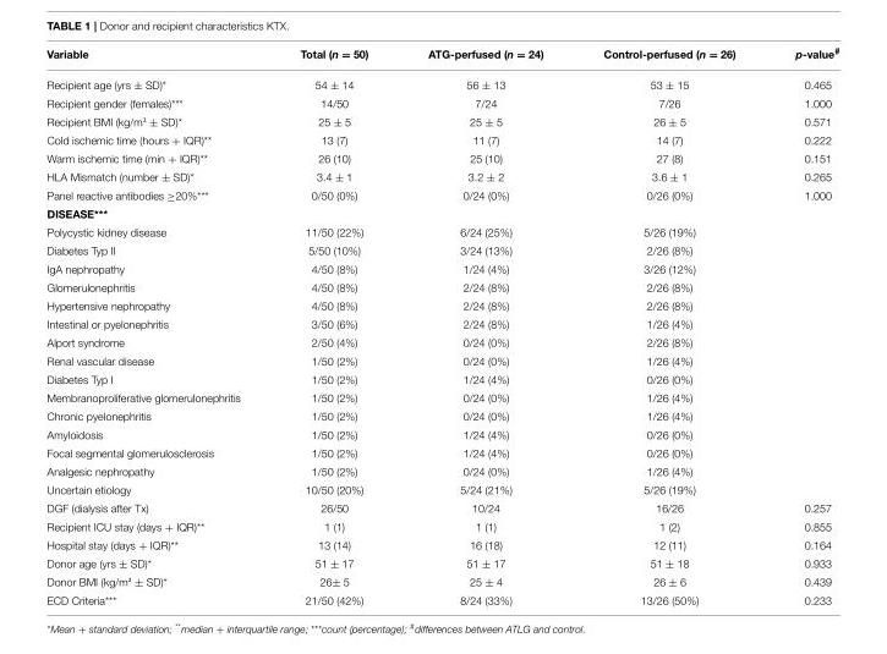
<table><thead><tr><td>Variable</td><td>Total (n = 50)</td><td>ATG-perfused (n = 24)</td><td>Control-perfused (n = 26)</td><td>p-value<sup>#</sup></td></tr></thead><tbody><tr><td>Recipient age (yrs ± SD)*</td><td>54 ± 14</td><td>56 ± 13</td><td>53 ± 15</td><td>0.465</td></tr><tr><td>Recipient gender (females)***</td><td>14/50</td><td>7/24</td><td>7/26</td><td>1.000</td></tr><tr><td>Recipient BMI (kg/m² ± SD)*</td><td>25 ± 5</td><td>25 ± 5</td><td>26 ± 5</td><td>0.571</td></tr><tr><td>Cold ischemic time (hours + IQR)**</td><td>13 (7)</td><td>11 (7)</td><td>14 (7)</td><td>0.222</td></tr><tr><td>Warm ischemic time (min + IQR)**</td><td>26 (10)</td><td>25 (10)</td><td>27 (8)</td><td>0.151</td></tr><tr><td>HLA Mismatch (number ± SD)*</td><td>3.4 ± 1</td><td>3.2 ± 2</td><td>3.6 ± 1</td><td>0.265</td></tr><tr><td>Panel reactive antibodies ≥20%***</td><td>0/50 (0%)</td><td>0/24 (0%)</td><td>0/26 (0%)</td><td>1.000</td></tr><tr><td colspan="5">DISEASE***</td></tr><tr><td>Polycystic kidney disease</td><td>11/50 (22%)</td><td>6/24 (25%)</td><td>5/26 (19%)</td><td></td></tr><tr><td>Diabetes Typ II</td><td>5/50 (10%)</td><td>3/24 (13%)</td><td>2/26 (8%)</td><td></td></tr><tr><td>IgA nephropathy</td><td>4/50 (8%)</td><td>1/24 (4%)</td><td>3/26 (12%)</td><td></td></tr><tr><td>Glomerulonephritis</td><td>4/50 (8%)</td><td>2/24 (8%)</td><td>2/26 (8%)</td><td></td></tr><tr><td>Hypertensive nephropathy</td><td>4/50 (8%)</td><td>2/24 (8%)</td><td>2/26 (8%)</td><td></td></tr><tr><td>Intestinal or pyelonephritis</td><td>3/50 (6%)</td><td>2/24 (8%)</td><td>1/26 (4%)</td><td></td></tr><tr><td>Alport syndrome</td><td>2/50 (4%)</td><td>0/24 (0%)</td><td>2/26 (8%)</td><td></td></tr><tr><td>Renal vascular disease</td><td>1/50 (2%)</td><td>0/24 (0%)</td><td>1/26 (4%)</td><td></td></tr><tr><td>Diabetes Typ I</td><td>1/50 (2%)</td><td>1/24 (4%)</td><td>0/26 (0%)</td><td></td></tr><tr><td>Membranoproliferative glomerulonephritis</td><td>1/50 (2%)</td><td>0/24 (0%)</td><td>1/26 (4%)</td><td></td></tr><tr><td>Chronic pyelonephritis</td><td>1/50 (2%)</td><td>0/24 (0%)</td><td>1/26 (4%)</td><td></td></tr><tr><td>Amyloidosis</td><td>1/50 (2%)</td><td>1/24 (4%)</td><td>0/26 (0%)</td><td></td></tr><tr><td>Focal segmental glomerulosclerosis</td><td>1/50 (2%)</td><td>1/24 (4%)</td><td>0/26 (0%)</td><td></td></tr><tr><td>Analgesic nephropathy</td><td>1/50 (2%)</td><td>0/24 (0%)</td><td>1/26 (4%)</td><td></td></tr><tr><td>Uncertain etiology</td><td>10/50 (20%)</td><td>5/24 (21%)</td><td>5/26 (19%)</td><td></td></tr><tr><td>DGF (dialysis after Tx)</td><td>26/50</td><td>10/24</td><td>16/26</td><td>0.257</td></tr><tr><td>Recipient ICU stay (days + IQR)**</td><td>1 (1)</td><td>1 (1)</td><td>1 (2)</td><td>0.855</td></tr><tr><td>Hospital stay (days + IQR)**</td><td>13 (14)</td><td>16 (18)</td><td>12 (11)</td><td>0.164</td></tr><tr><td>Donor age (yrs ± SD)*</td><td>51 ± 17</td><td>51 ± 17</td><td>51 ± 18</td><td>0.933</td></tr><tr><td>Donor BMI (kg/m² ± SD)*</td><td>26± 5</td><td>25 ± 4</td><td>26 ± 6</td><td>0.439</td></tr><tr><td>ECD Criteria***</td><td>21/50 (42%)</td><td>8/24 (33%)</td><td>13/26 (50%)</td><td>0.233</td></tr></tbody></table>